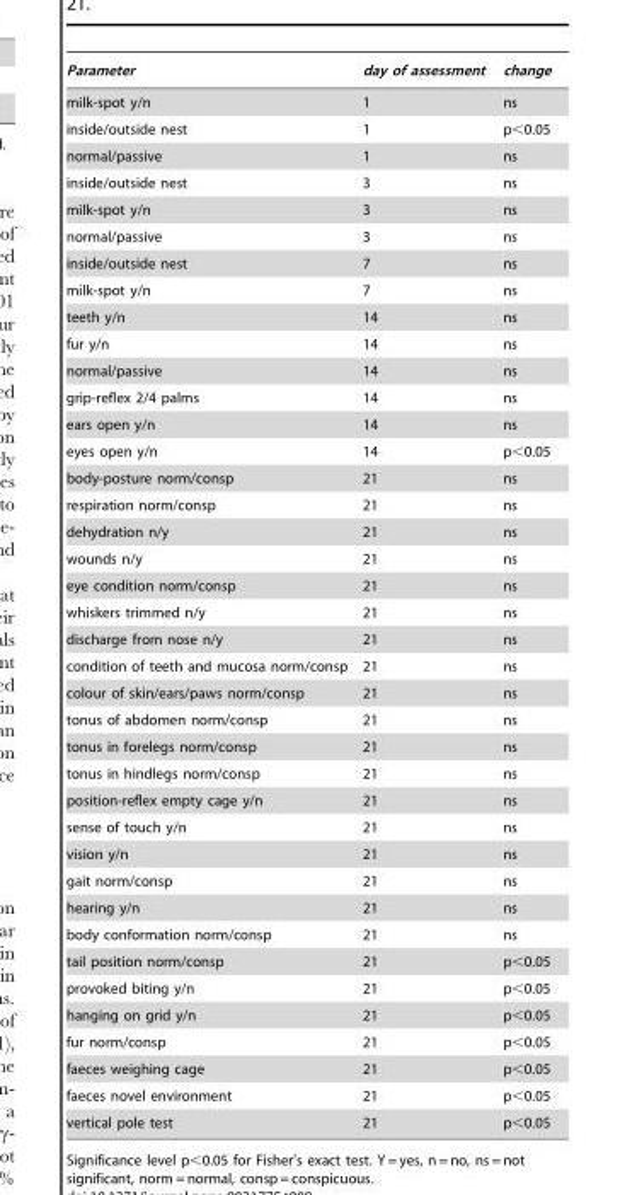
<table><thead><tr><td>Parameter</td><td>day of assessment</td><td>change</td></tr></thead><tbody><tr><td>milk-spot y/n</td><td>1</td><td>ns</td></tr><tr><td>inside/outside nest</td><td>1</td><td>p&lt;0.05</td></tr><tr><td>normal/passive</td><td>1</td><td>ns</td></tr><tr><td>inside/outside nest</td><td>3</td><td>ns</td></tr><tr><td>milk-spot y/n</td><td>3</td><td>ns</td></tr><tr><td>normal/passive</td><td>3</td><td>ns</td></tr><tr><td>inside/outside nest</td><td>7</td><td>ns</td></tr><tr><td>milk-spot y/n</td><td>7</td><td>ns</td></tr><tr><td>teeth y/n</td><td>14</td><td>ns</td></tr><tr><td>fur y/n</td><td>14</td><td>ns</td></tr><tr><td>normal/passive</td><td>14</td><td>ns</td></tr><tr><td>grip-reflex 2/4 palms</td><td>14</td><td>ns</td></tr><tr><td>ears open y/n</td><td>14</td><td>ns</td></tr><tr><td>eyes open y/n</td><td>14</td><td>p&lt;0.05</td></tr><tr><td>body-posture norm/consp</td><td>21</td><td>ns</td></tr><tr><td>respiration norm/consp</td><td>21</td><td>ns</td></tr><tr><td>dehydration n/y</td><td>21</td><td>ns</td></tr><tr><td>wounds n/y</td><td>21</td><td>ns</td></tr><tr><td>eye condition norm/consp</td><td>21</td><td>ns</td></tr><tr><td>whiskers trimmed n/y</td><td>21</td><td>ns</td></tr><tr><td>discharge from nose n/y</td><td>21</td><td>ns</td></tr><tr><td>condition of teeth and mucosa norm/consp</td><td>21</td><td>ns</td></tr><tr><td>colour of skin/ears/paws norm/consp</td><td>21</td><td>ns</td></tr><tr><td>tonus of abdomen norm/consp</td><td>21</td><td>ns</td></tr><tr><td>tonus in forelegs norm/consp</td><td>21</td><td>ns</td></tr><tr><td>tonus in hindlegs norm/consp</td><td>21</td><td>ns</td></tr><tr><td>position-reflex empty cage y/n</td><td>21</td><td>ns</td></tr><tr><td>sense of touch y/n</td><td>21</td><td>ns</td></tr><tr><td>vision y/n</td><td>21</td><td>ns</td></tr><tr><td>gait norm/consp</td><td>21</td><td>ns</td></tr><tr><td>hearing y/n</td><td>21</td><td>ns</td></tr><tr><td>body conformation norm/consp</td><td>21</td><td>ns</td></tr><tr><td>tail position norm/consp</td><td>21</td><td>p&lt;0.05</td></tr><tr><td>provoked biting y/n</td><td>21</td><td>p&lt;0.05</td></tr><tr><td>hanging on grid y/n</td><td>21</td><td>p&lt;0.05</td></tr><tr><td>fur norm/consp</td><td>21</td><td>p&lt;0.05</td></tr><tr><td>faeces weighing cage</td><td>21</td><td>p&lt;0.05</td></tr><tr><td>faeces novel environment</td><td>21</td><td>p&lt;0.05</td></tr><tr><td>vertical pole test</td><td>21</td><td>p&lt;0.05</td></tr></tbody></table>